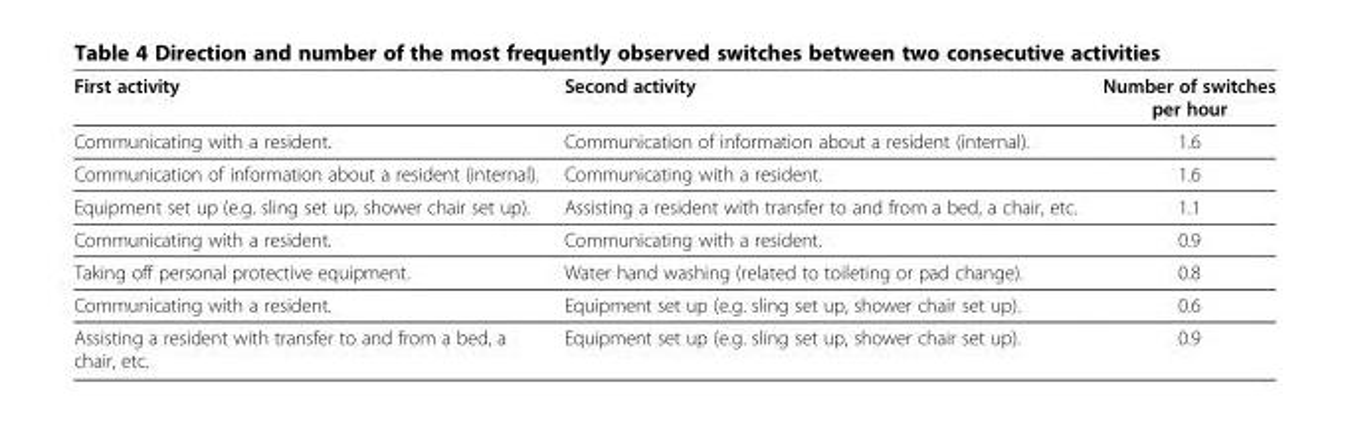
<table><thead><tr><td>First activity</td><td>Second activity</td><td>Number of switches per hour</td></tr></thead><tbody><tr><td>Communicating with a resident.</td><td>Communication of information about a resident (internal).</td><td>1.6</td></tr><tr><td>Communication of information about a resident (internal).</td><td>Communicating with a resident.</td><td>1.6</td></tr><tr><td>Equipment set up (e.g. sling set up, shower chair set up).</td><td>Assisting a resident with transfer to and from a bed, a chair, etc.</td><td>1.1</td></tr><tr><td>Communicating with a resident.</td><td>Communicating with a resident.</td><td>0.9</td></tr><tr><td>Taking off personal protective equipment.</td><td>Water hand washing (related to toileting or pad change).</td><td>0.8</td></tr><tr><td>Communicating with a resident.</td><td>Equipment set up (e.g. sling set up, shower chair set up).</td><td>0.6</td></tr><tr><td>Assisting a resident with transfer to and from a bed, a chair, etc.</td><td>Equipment set up (e.g. sling set up, shower chair set up).</td><td>0.9</td></tr></tbody></table>